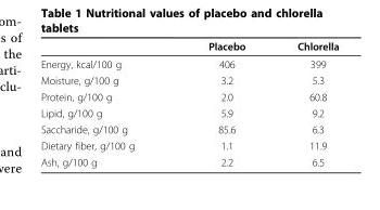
<table><thead><tr><td></td><td>Placebo</td><td>Chlorella</td></tr></thead><tbody><tr><td>Energy, kcal/100 g</td><td>406</td><td>399</td></tr><tr><td>Moisture, g/100 g</td><td>3.2</td><td>5.3</td></tr><tr><td>Protein, g/100 g</td><td>2.0</td><td>60.8</td></tr><tr><td>Lipid, g/100 g</td><td>5.9</td><td>9.2</td></tr><tr><td>Saccharide, g/100 g</td><td>85.6</td><td>6.3</td></tr><tr><td>Dietary fiber, g/100 g</td><td>1.1</td><td>11.9</td></tr><tr><td>Ash, g/100 g</td><td>2.2</td><td>6.5</td></tr></tbody></table>